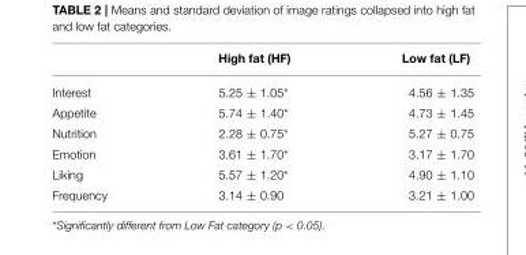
<table><thead><tr><td></td><td>High fat (HF)</td><td>Low fat (LF)</td></tr></thead><tbody><tr><td>Interest</td><td>5.25 ± 1.05*</td><td>4.56 ± 1.35</td></tr><tr><td>Appetite</td><td>5.74 ± 1.40*</td><td>4.73 ± 1.45</td></tr><tr><td>Nutrition</td><td>2.28 ± 0.75*</td><td>5.27 ± 0.75</td></tr><tr><td>Emotion</td><td>3.61 ± 1.70*</td><td>3.17 ± 1.70</td></tr><tr><td>Liking</td><td>5.57 ± 1.20*</td><td>4.90 ± 1.10</td></tr><tr><td>Frequency</td><td>3.14 ± 0.90</td><td>3.21 ± 1.00</td></tr></tbody></table>